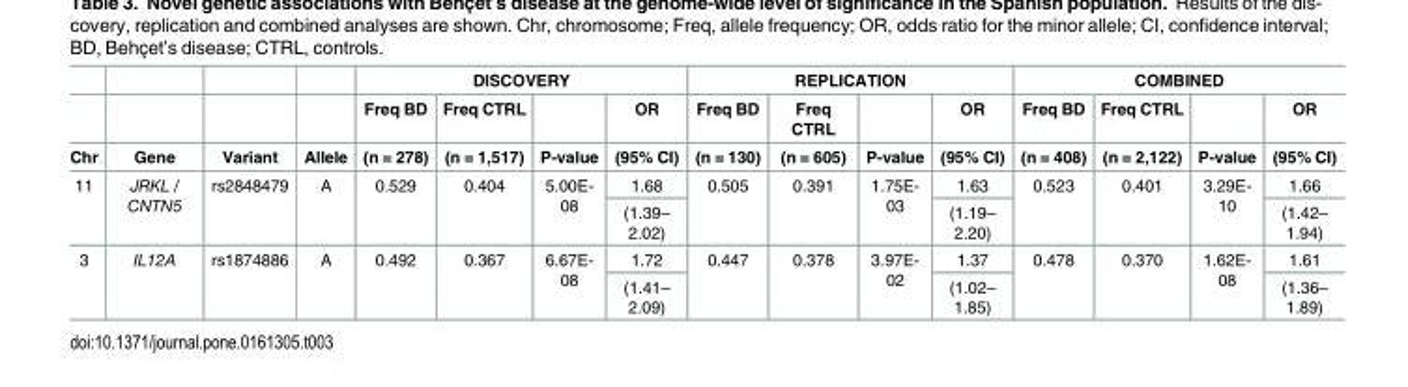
<table><thead><tr><td rowspan="3">Chr</td><td rowspan="3">Gene</td><td rowspan="3">Variant</td><td rowspan="3">Allele</td><td colspan="4">DISCOVERY</td><td colspan="4">REPLICATION</td><td colspan="4">COMBINED</td></tr><tr><td rowspan="2">Freq BD (n = 278)</td><td rowspan="2">Freq CTRL (n = 1,517)</td><td rowspan="2">P-value</td><td rowspan="2">OR (95% CI)</td><td rowspan="2">Freq BD (n = 130)</td><td rowspan="2">Freq CTRL (n = 605)</td><td rowspan="2">P-value</td><td rowspan="2">OR (95% CI)</td><td rowspan="2">Freq BD (n = 408)</td><td rowspan="2">Freq CTRL (n = 2,122)</td><td rowspan="2">P-value</td><td rowspan="2">OR (95% CI)</td></tr><tr></tr></thead><tbody><tr><td rowspan="2">11</td><td rowspan="2">JRKL / CNTN5</td><td rowspan="2">rs2848479</td><td rowspan="2">A</td><td rowspan="2">0.529</td><td rowspan="2">0.404</td><td rowspan="2">5.00E- 08</td><td>1.68</td><td rowspan="2">0.505</td><td rowspan="2">0.391</td><td rowspan="2">1.75E- 03</td><td>1.63</td><td rowspan="2">0.523</td><td rowspan="2">0.401</td><td rowspan="2">3.29E- 10</td><td>1.66</td></tr><tr><td>(1.39– 2.02)</td><td>(1.19– 2.20)</td><td>(1.42– 1.94)</td></tr><tr><td rowspan="2">3</td><td rowspan="2">IL12A</td><td rowspan="2">rs1874886</td><td rowspan="2">A</td><td rowspan="2">0.492</td><td rowspan="2">0.367</td><td rowspan="2">6.67E- 08</td><td>1.72</td><td rowspan="2">0.447</td><td rowspan="2">0.378</td><td rowspan="2">3.97E- 02</td><td>1.37</td><td rowspan="2">0.478</td><td rowspan="2">0.370</td><td rowspan="2">1.62E- 08</td><td>1.61</td></tr><tr><td>(1.41– 2.09)</td><td>(1.02– 1.85)</td><td>(1.36– 1.89)</td></tr></tbody></table>